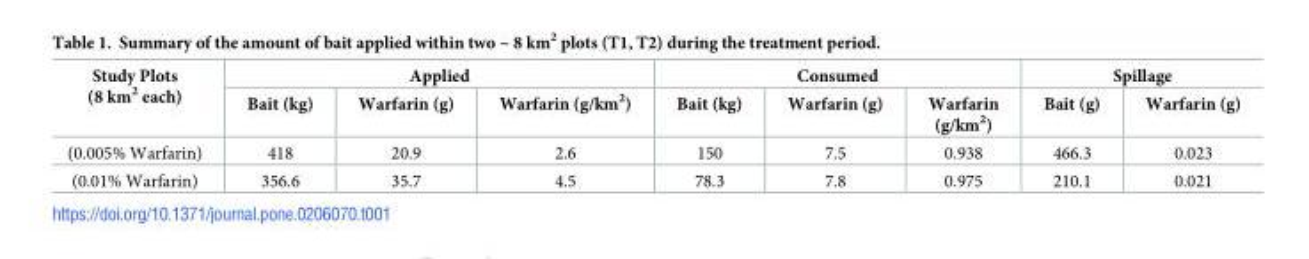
<table><thead><tr><td rowspan="2">Study Plots (8 km<sup>2</sup> each)</td><td colspan="3">Applied</td><td colspan="3">Consumed</td><td colspan="2">Spillage</td></tr><tr><td>Bait (kg)</td><td>Warfarin (g)</td><td>Warfarin (g/km<sup>2</sup>)</td><td>Bait (kg)</td><td>Warfarin (g)</td><td>Warfarin (g/km<sup>2</sup>)</td><td>Bait (g)</td><td>Warfarin (g)</td></tr></thead><tbody><tr><td>(0.005% Warfarin)</td><td>418</td><td>20.9</td><td>2.6</td><td>150</td><td>7.5</td><td>0.938</td><td>466.3</td><td>0.023</td></tr><tr><td>(0.01% Warfarin)</td><td>356.6</td><td>35.7</td><td>4.5</td><td>78.3</td><td>7.8</td><td>0.975</td><td>210.1</td><td>0.021</td></tr></tbody></table>